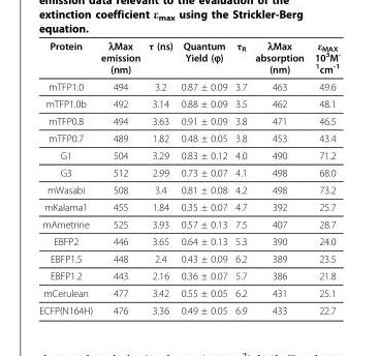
<table><thead><tr><td>Protein</td><td>λMax emission (nm)</td><td>τ (ns)</td><td>Quantum Yield (ϕ)</td><td>τ<sub>R</sub></td><td>λMax absorption (nm)</td><td>ε<sub>MAX</sub> 10<sup>3</sup>M<sup>- 1</sup>cm<sup>-1</sup></td></tr></thead><tbody><tr><td>mTFP1.0</td><td>494</td><td>3.2</td><td>0.87 ± 0.09</td><td>3.7</td><td>463</td><td>49.6</td></tr><tr><td>mTFP1.0b</td><td>492</td><td>3.14</td><td>0.88 ± 0.09</td><td>3.5</td><td>462</td><td>48.1</td></tr><tr><td>mTFP0.8</td><td>494</td><td>3.63</td><td>0.91 ± 0.09</td><td>3.8</td><td>471</td><td>46.5</td></tr><tr><td>mTFP0.7</td><td>489</td><td>1.82</td><td>0.48 ± 0.05</td><td>3.8</td><td>453</td><td>43.4</td></tr><tr><td>G1</td><td>504</td><td>3.29</td><td>0.83 ± 0.12</td><td>4.0</td><td>490</td><td>71.2</td></tr><tr><td>G3</td><td>512</td><td>2.99</td><td>0.73 ± 0.07</td><td>4.1</td><td>498</td><td>68.0</td></tr><tr><td>mWasabi</td><td>508</td><td>3.4</td><td>0.81 ± 0.08</td><td>4.2</td><td>498</td><td>73.2</td></tr><tr><td>mKalama1</td><td>455</td><td>1.84</td><td>0.35 ± 0.07</td><td>4.7</td><td>392</td><td>25.7</td></tr><tr><td>mAmetrine</td><td>525</td><td>3.93</td><td>0.57 ± 0.13</td><td>7.5</td><td>407</td><td>28.7</td></tr><tr><td>EBFP2</td><td>446</td><td>3.65</td><td>0.64 ± 0.13</td><td>5.3</td><td>390</td><td>24.0</td></tr><tr><td>EBFP1.5</td><td>448</td><td>2.4</td><td>0.43 ± 0.09</td><td>6.2</td><td>389</td><td>23.5</td></tr><tr><td>EBFP1.2</td><td>443</td><td>2.16</td><td>0.36 ± 0.07</td><td>5.7</td><td>386</td><td>21.8</td></tr><tr><td>mCerulean</td><td>477</td><td>3.42</td><td>0.55 ± 0.05</td><td>6.2</td><td>431</td><td>25.1</td></tr><tr><td>ECFP(N164H)</td><td>476</td><td>3.36</td><td>0.49 ± 0.05</td><td>6.9</td><td>433</td><td>22.7</td></tr></tbody></table>